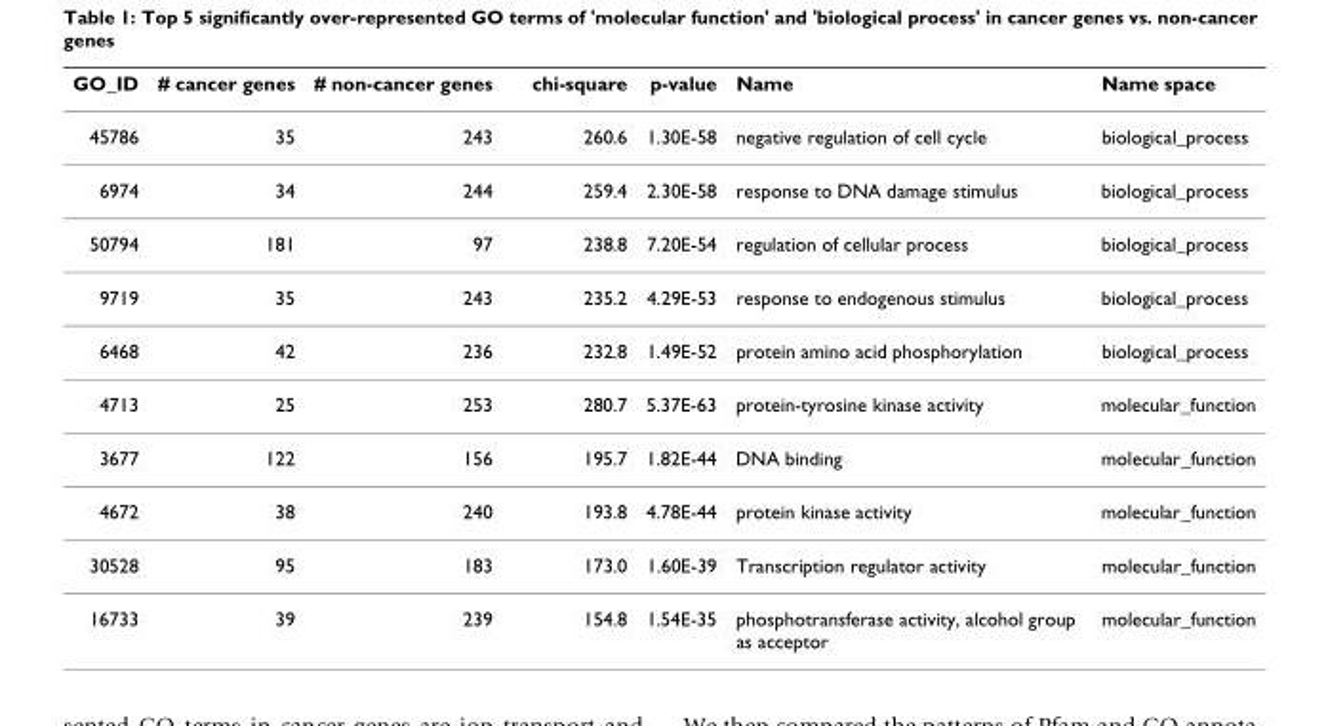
<table><thead><tr><td>GO_ID</td><td># cancer genes</td><td># non-cancer genes</td><td>chi-square</td><td>p-value</td><td>Name</td><td>Name space</td></tr></thead><tbody><tr><td>45786</td><td>35</td><td>243</td><td>260.6</td><td>1.30E-58</td><td>negative regulation of cell cycle</td><td>biological_process</td></tr><tr><td>6974</td><td>34</td><td>244</td><td>259.4</td><td>2.30E-58</td><td>response to DNA damage stimulus</td><td>biological_process</td></tr><tr><td>50794</td><td>181</td><td>97</td><td>238.8</td><td>7.20E-54</td><td>regulation of cellular process</td><td>biological_process</td></tr><tr><td>9719</td><td>35</td><td>243</td><td>235.2</td><td>4.29E-53</td><td>response to endogenous stimulus</td><td>biological_process</td></tr><tr><td>6468</td><td>42</td><td>236</td><td>232.8</td><td>1.49E-52</td><td>protein amino acid phosphorylation</td><td>biological_process</td></tr><tr><td>4713</td><td>25</td><td>253</td><td>280.7</td><td>5.37E-63</td><td>protein-tyrosine kinase activity</td><td>molecular_function</td></tr><tr><td>3677</td><td>122</td><td>156</td><td>195.7</td><td>1.82E-44</td><td>DNA binding</td><td>molecular_function</td></tr><tr><td>4672</td><td>38</td><td>240</td><td>193.8</td><td>4.78E-44</td><td>protein kinase activity</td><td>molecular_function</td></tr><tr><td>30528</td><td>95</td><td>183</td><td>173.0</td><td>1.60E-39</td><td>Transcription regulator activity</td><td>molecular_function</td></tr><tr><td>16733</td><td>39</td><td>239</td><td>154.8</td><td>1.54E-35</td><td>phosphotransferase activity, alcohol group as acceptor</td><td>molecular_function</td></tr></tbody></table>